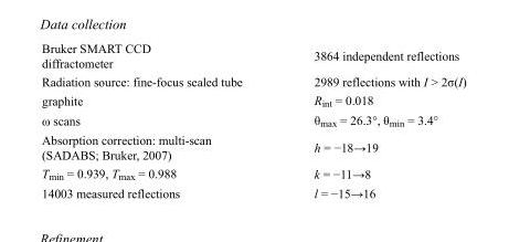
<table><tbody><tr><td>Bruker SMART CCD diffractometer</td><td>3864 independent reflections</td></tr><tr><td>Radiation source: fine-focus sealed tube</td><td>2989 reflections with I &gt; 2σ(I)</td></tr><tr><td>graphite</td><td>R<sub>int</sub> = 0.018</td></tr><tr><td>ω scans</td><td>θ<sub>max</sub> = 26.3°, θ<sub>min</sub> = 3.4°</td></tr><tr><td>Absorption correction: multi-scan (SADABS; Bruker, 2007)</td><td>h = −18→19</td></tr><tr><td>T<sub>min</sub> = 0.939, T<sub>max</sub> = 0.988</td><td>k = −11→8</td></tr><tr><td>14003 measured reflections</td><td>l = −15→16</td></tr></tbody></table>